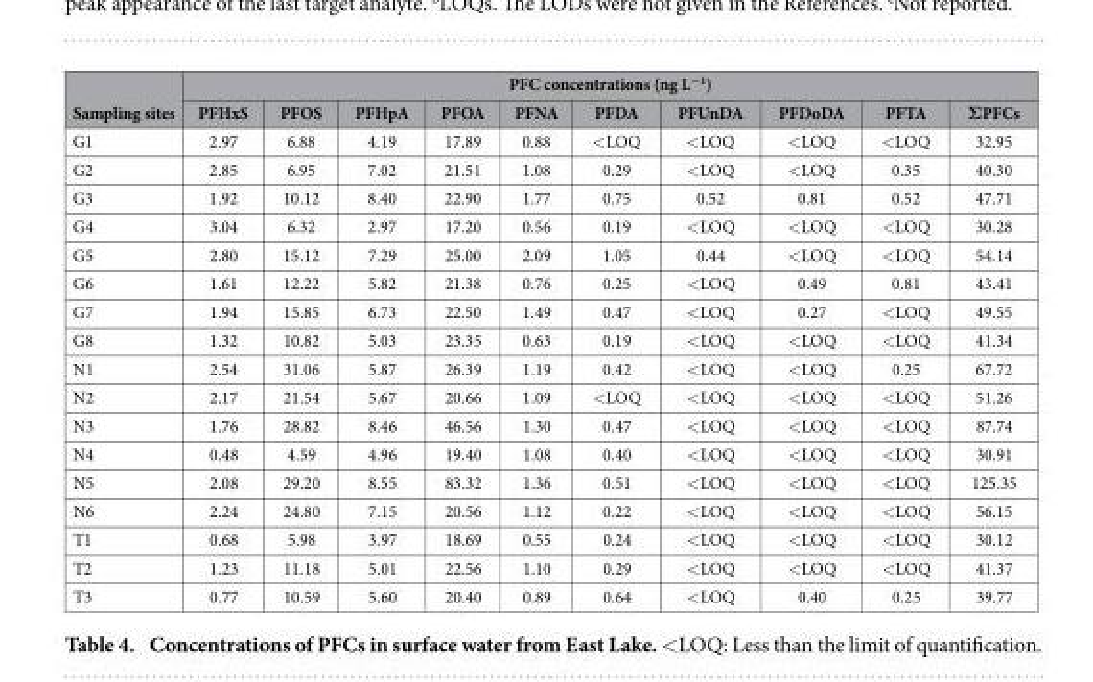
<table><thead><tr><td rowspan="2">Sampling sites</td><td colspan="10">PFC concentrations (ng L<sup>−1</sup>)</td></tr><tr><td>PFHxS</td><td>PFOS</td><td>PFHpA</td><td>PFOA</td><td>PFNA</td><td>PFDA</td><td>PFUnDA</td><td>PFDoDA</td><td>PFTA</td><td>ΣPFCs</td></tr></thead><tbody><tr><td>G1</td><td>2.97</td><td>6.88</td><td>4.19</td><td>17.89</td><td>0.88</td><td>&lt; LOQ</td><td>&lt; LOQ</td><td>&lt; LOQ</td><td>&lt; LOQ</td><td>32.95</td></tr><tr><td>G2</td><td>2.85</td><td>6.95</td><td>7.02</td><td>21.51</td><td>1.08</td><td>0.29</td><td>&lt; LOQ</td><td>&lt; LOQ</td><td>0.35</td><td>40.30</td></tr><tr><td>G3</td><td>1.92</td><td>10.12</td><td>8.40</td><td>22.90</td><td>1.77</td><td>0.75</td><td>0.52</td><td>0.81</td><td>0.52</td><td>47.71</td></tr><tr><td>G4</td><td>3.04</td><td>6.32</td><td>2.97</td><td>17.20</td><td>0.56</td><td>0.19</td><td>&lt; LOQ</td><td>&lt; LOQ</td><td>&lt; LOQ</td><td>30.28</td></tr><tr><td>G5</td><td>2.80</td><td>15.12</td><td>7.29</td><td>25.00</td><td>2.09</td><td>1.05</td><td>0.44</td><td>&lt; LOQ</td><td>&lt; LOQ</td><td>54.14</td></tr><tr><td>G6</td><td>1.61</td><td>12.22</td><td>5.82</td><td>21.38</td><td>0.76</td><td>0.25</td><td>&lt; LOQ</td><td>0.49</td><td>0.81</td><td>43.41</td></tr><tr><td>G7</td><td>1.94</td><td>15.85</td><td>6.73</td><td>22.50</td><td>1.49</td><td>0.47</td><td>&lt; LOQ</td><td>0.27</td><td>&lt; LOQ</td><td>49.55</td></tr><tr><td>G8</td><td>1.32</td><td>10.82</td><td>5.03</td><td>23.35</td><td>0.63</td><td>0.19</td><td>&lt; LOQ</td><td>&lt; LOQ</td><td>&lt; LOQ</td><td>41.34</td></tr><tr><td>N1</td><td>2.54</td><td>31.06</td><td>5.87</td><td>26.39</td><td>1.19</td><td>0.42</td><td>&lt; LOQ</td><td>&lt; LOQ</td><td>0.25</td><td>67.72</td></tr><tr><td>N2</td><td>2.17</td><td>21.54</td><td>5.67</td><td>20.66</td><td>1.09</td><td>&lt; LOQ</td><td>&lt; LOQ</td><td>&lt; LOQ</td><td>&lt; LOQ</td><td>51.26</td></tr><tr><td>N3</td><td>1.76</td><td>28.82</td><td>8.46</td><td>46.56</td><td>1.30</td><td>0.47</td><td>&lt; LOQ</td><td>&lt; LOQ</td><td>&lt; LOQ</td><td>87.74</td></tr><tr><td>N4</td><td>0.48</td><td>4.59</td><td>4.96</td><td>19.40</td><td>1.08</td><td>0.40</td><td>&lt; LOQ</td><td>&lt; LOQ</td><td>&lt; LOQ</td><td>30.91</td></tr><tr><td>N5</td><td>2.08</td><td>29.20</td><td>8.55</td><td>83.32</td><td>1.36</td><td>0.51</td><td>&lt; LOQ</td><td>&lt; LOQ</td><td>&lt; LOQ</td><td>125.35</td></tr><tr><td>N6</td><td>2.24</td><td>24.80</td><td>7.15</td><td>20.56</td><td>1.12</td><td>0.22</td><td>&lt; LOQ</td><td>&lt; LOQ</td><td>&lt; LOQ</td><td>56.15</td></tr><tr><td>T1</td><td>0.68</td><td>5.98</td><td>3.97</td><td>18.69</td><td>0.55</td><td>0.24</td><td>&lt; LOQ</td><td>&lt; LOQ</td><td>&lt; LOQ</td><td>30.12</td></tr><tr><td>T2</td><td>1.23</td><td>11.18</td><td>5.01</td><td>22.56</td><td>1.10</td><td>0.29</td><td>&lt; LOQ</td><td>&lt; LOQ</td><td>&lt; LOQ</td><td>41.37</td></tr><tr><td>T3</td><td>0.77</td><td>10.59</td><td>5.60</td><td>20.40</td><td>0.89</td><td>0.64</td><td>&lt; LOQ</td><td>0.40</td><td>0.25</td><td>39.77</td></tr></tbody></table>